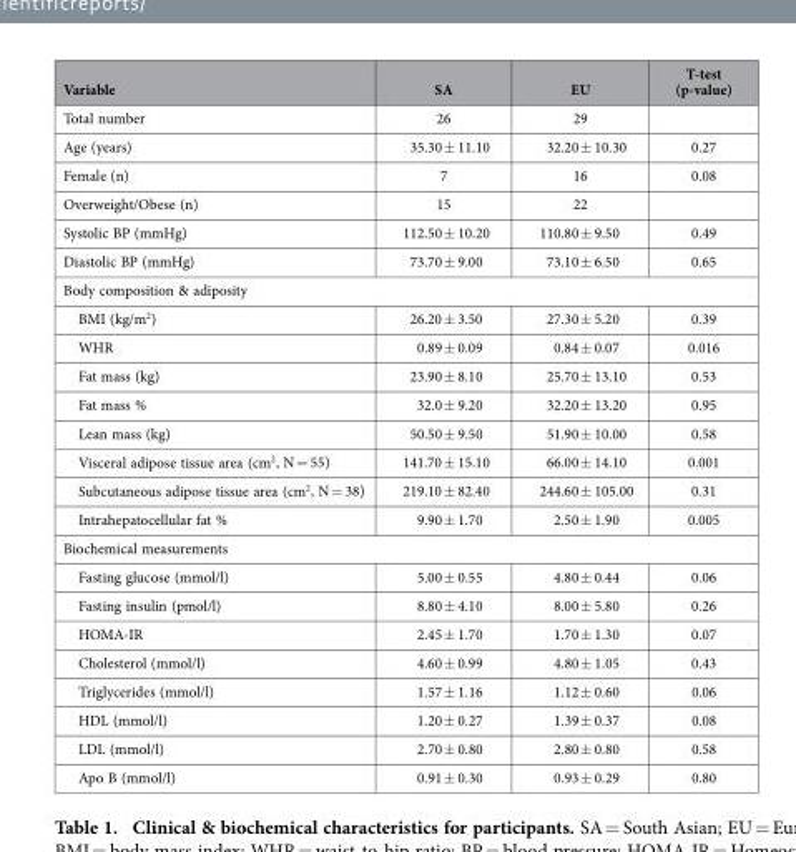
<table><thead><tr><td>Variable</td><td>SA</td><td>EU</td><td>T-test (p-value)</td></tr></thead><tbody><tr><td>Total number</td><td>26</td><td>29</td><td></td></tr><tr><td>Age (years)</td><td>35.30 ± 11.10</td><td>32.20 ± 10.30</td><td>0.27</td></tr><tr><td>Female (n)</td><td>7</td><td>16</td><td>0.08</td></tr><tr><td>Overweight/Obese (n)</td><td>15</td><td>22</td><td></td></tr><tr><td>Systolic BP (mmHg)</td><td>112.50 ± 10.20</td><td>110.80 ± 9.50</td><td>0.49</td></tr><tr><td>Diastolic BP (mmHg)</td><td>73.70 ± 9.00</td><td>73.10 ± 6.50</td><td>0.65</td></tr><tr><td colspan="4">Body composition &amp; adiposity</td></tr><tr><td>BMI (kg/m<sup>2</sup>)</td><td>26.20 ± 3.50</td><td>27.30 ± 5.20</td><td>0.39</td></tr><tr><td>WHR</td><td>0.89 ± 0.09</td><td>0.84 ± 0.07</td><td>0.016</td></tr><tr><td>Fat mass (kg)</td><td>23.90 ± 8.10</td><td>25.70 ± 13.10</td><td>0.53</td></tr><tr><td>Fat mass %</td><td>32.0 ± 9.20</td><td>32.20 ± 13.20</td><td>0.95</td></tr><tr><td>Lean mass (kg)</td><td>50.50 ± 9.50</td><td>51.90 ± 10.00</td><td>0.58</td></tr><tr><td>Visceral adipose tissue area (cm<sup>2</sup>, N = 55)</td><td>141.70 ± 15.10</td><td>66.00 ± 14.10</td><td>0.001</td></tr><tr><td>Subcutaneous adipose tissue area (cm<sup>2</sup>, N = 38)</td><td>219.10 ± 82.40</td><td>244.60 ± 105.00</td><td>0.31</td></tr><tr><td>Intrahepatocellular fat %</td><td>9.90 ± 1.70</td><td>2.50 ± 1.90</td><td>0.005</td></tr><tr><td colspan="4">Biochemical measurements</td></tr><tr><td>Fasting glucose (mmol/l)</td><td>5.00 ± 0.55</td><td>4.80 ± 0.44</td><td>0.06</td></tr><tr><td>Fasting insulin (pmol/l)</td><td>8.80 ± 4.10</td><td>8.00 ± 5.80</td><td>0.26</td></tr><tr><td>HOMA-IR</td><td>2.45 ± 1.70</td><td>1.70 ± 1.30</td><td>0.07</td></tr><tr><td>Cholesterol (mmol/l)</td><td>4.60 ± 0.99</td><td>4.80 ± 1.05</td><td>0.43</td></tr><tr><td>Triglycerides (mmol/l)</td><td>1.57 ± 1.16</td><td>1.12 ± 0.60</td><td>0.06</td></tr><tr><td>HDL (mmol/l)</td><td>1.20 ± 0.27</td><td>1.39 ± 0.37</td><td>0.08</td></tr><tr><td>LDL (mmol/l)</td><td>2.70 ± 0.80</td><td>2.80 ± 0.80</td><td>0.58</td></tr><tr><td>Apo B (mmol/l)</td><td>0.91 ± 0.30</td><td>0.93 ± 0.29</td><td>0.80</td></tr></tbody></table>